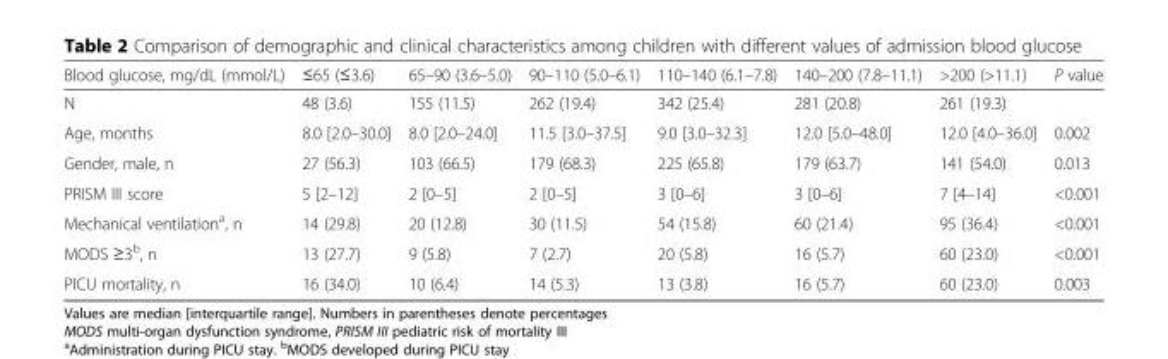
<table><thead><tr><td>Blood glucose, mg/dL (mmol/L)</td><td>≤65 (≤3.6)</td><td>65–90 (3.6–5.0)</td><td>90–110 (5.0–6.1)</td><td>110–140 (6.1–7.8)</td><td>140–200 (7.8–11.1)</td><td>&gt;200 (&gt;11.1)</td><td>P value</td></tr></thead><tbody><tr><td>N</td><td>48 (3.6)</td><td>155 (11.5)</td><td>262 (19.4)</td><td>342 (25.4)</td><td>281 (20.8)</td><td>261 (19.3)</td><td></td></tr><tr><td>Age, months</td><td>8.0 [2.0–30.0]</td><td>8.0 [2.0–24.0]</td><td>11.5 [3.0–37.5]</td><td>9.0 [3.0–32.3]</td><td>12.0 [5.0–48.0]</td><td>12.0 [4.0–36.0]</td><td>0.002</td></tr><tr><td>Gender, male, n</td><td>27 (56.3)</td><td>103 (66.5)</td><td>179 (68.3)</td><td>225 (65.8)</td><td>179 (63.7)</td><td>141 (54.0)</td><td>0.013</td></tr><tr><td>PRISM III score</td><td>5 [2–12]</td><td>2 [0–5]</td><td>2 [0–5]</td><td>3 [0–6]</td><td>3 [0–6]</td><td>7 [4–14]</td><td>&lt;0.001</td></tr><tr><td>Mechanical ventilation<sup>a</sup>, n</td><td>14 (29.8)</td><td>20 (12.8)</td><td>30 (11.5)</td><td>54 (15.8)</td><td>60 (21.4)</td><td>95 (36.4)</td><td>&lt;0.001</td></tr><tr><td>MODS ≥3<sup>b</sup>, n</td><td>13 (27.7)</td><td>9 (5.8)</td><td>7 (2.7)</td><td>20 (5.8)</td><td>16 (5.7)</td><td>60 (23.0)</td><td>&lt;0.001</td></tr><tr><td>PICU mortality, n</td><td>16 (34.0)</td><td>10 (6.4)</td><td>14 (5.3)</td><td>13 (3.8)</td><td>16 (5.7)</td><td>60 (23.0)</td><td>0.003</td></tr></tbody></table>